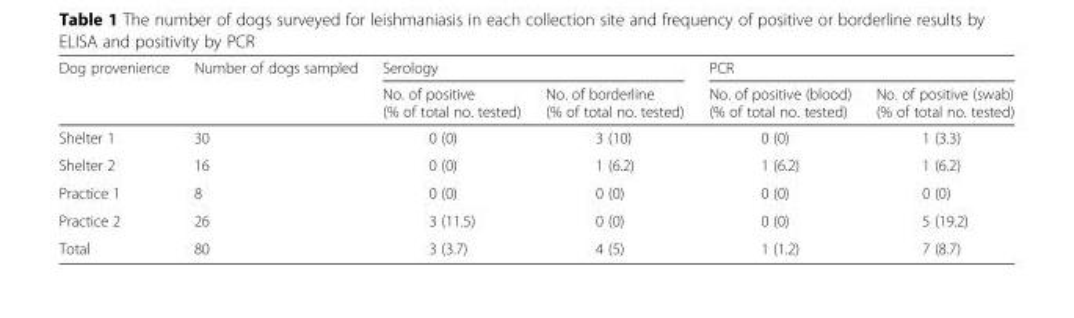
<table><thead><tr><td rowspan="2">Dog provenience</td><td rowspan="2">Number of dogs sampled</td><td colspan="2">Serology</td><td colspan="2">PCR</td></tr><tr><td>No. of positive (% of total no. tested)</td><td>No. of borderline (% of total no. tested)</td><td>No. of positive (blood) (% of total no. tested)</td><td>No. of positive (swab) (% of total no. tested)</td></tr></thead><tbody><tr><td>Shelter 1</td><td>30</td><td>0 (0)</td><td>3 (10)</td><td>0 (0)</td><td>1 (3.3)</td></tr><tr><td>Shelter 2</td><td>16</td><td>0 (0)</td><td>1 (6.2)</td><td>1 (6.2)</td><td>1 (6.2)</td></tr><tr><td>Practice 1</td><td>8</td><td>0 (0)</td><td>0 (0)</td><td>0 (0)</td><td>0 (0)</td></tr><tr><td>Practice 2</td><td>26</td><td>3 (11.5)</td><td>0 (0)</td><td>0 (0)</td><td>5 (19.2)</td></tr><tr><td>Total</td><td>80</td><td>3 (3.7)</td><td>4 (5)</td><td>1 (1.2)</td><td>7 (8.7)</td></tr></tbody></table>